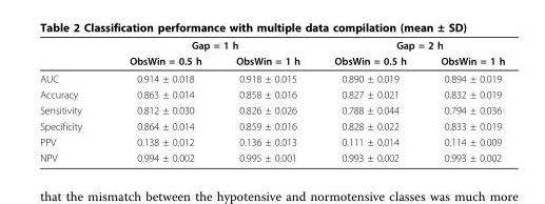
<table><thead><tr><td rowspan="2"></td><td colspan="2">Gap = 1 h</td><td colspan="2">Gap = 2 h</td></tr><tr><td>ObsWin = 0.5 h</td><td>ObsWin = 1 h</td><td>ObsWin = 0.5 h</td><td>ObsWin = 1 h</td></tr></thead><tbody><tr><td>AUC</td><td>0.914 ± 0.018</td><td>0.918 ± 0.015</td><td>0.890 ± 0.019</td><td>0.894 ± 0.019</td></tr><tr><td>Accuracy</td><td>0.863 ± 0.014</td><td>0.858 ± 0.016</td><td>0.827 ± 0.021</td><td>0.832 ± 0.019</td></tr><tr><td>Sensitivity</td><td>0.812 ± 0.030</td><td>0.826 ± 0.026</td><td>0.788 ± 0.044</td><td>0.794 ± 0.036</td></tr><tr><td>Specificity</td><td>0.864 ± 0.014</td><td>0.859 ± 0.016</td><td>0.828 ± 0.022</td><td>0.833 ± 0.019</td></tr><tr><td>PPV</td><td>0.138 ± 0.012</td><td>0.136 ± 0.013</td><td>0.111 ± 0.014</td><td>0.114 ± 0.009</td></tr><tr><td>NPV</td><td>0.994 ± 0.002</td><td>0.995 ± 0.001</td><td>0.993 ± 0.002</td><td>0.993 ± 0.002</td></tr></tbody></table>